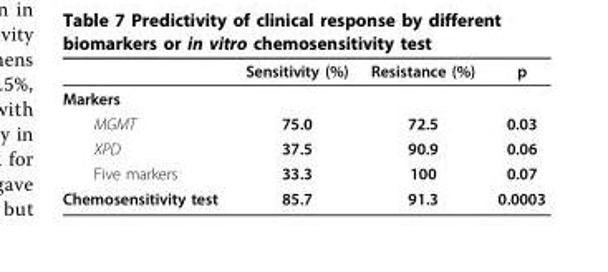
<table><thead><tr><td></td><td>Sensitivity (%)</td><td>Resistance (%)</td><td>p</td></tr></thead><tbody><tr><td colspan="4">Markers</td></tr><tr><td>MGMT</td><td>75.0</td><td>72.5</td><td>0.03</td></tr><tr><td>XPD</td><td>37.5</td><td>90.9</td><td>0.06</td></tr><tr><td>Five markers</td><td>33.3</td><td>100</td><td>0.07</td></tr><tr><td>Chemosensitivity test</td><td>85.7</td><td>91.3</td><td>0.0003</td></tr></tbody></table>